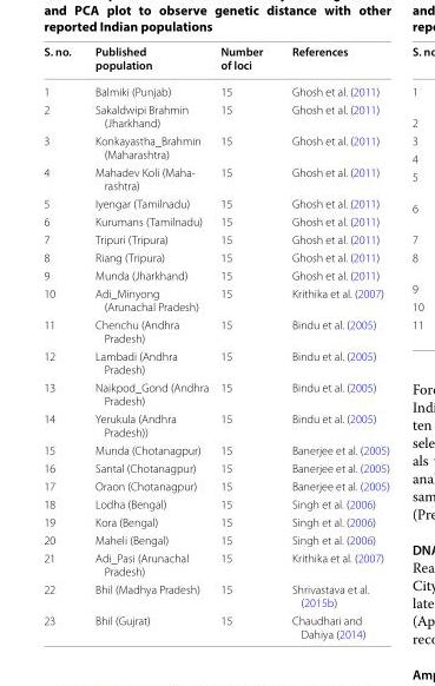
<table><thead><tr><td>S. no.</td><td>Published population</td><td>Number of loci</td><td>References</td></tr></thead><tbody><tr><td>1</td><td>Balmiki (Punjab)</td><td>15</td><td>Ghosh et al. (2011)</td></tr><tr><td>2</td><td>Sakaldwipi Brahmin (Jharkhand)</td><td>15</td><td>Ghosh et al. (2011)</td></tr><tr><td>3</td><td>Konkayastha_Brahmin (Maharashtra)</td><td>15</td><td>Ghosh et al. (2011)</td></tr><tr><td>4</td><td>Mahadev Koli (Maha- rashtra)</td><td>15</td><td>Ghosh et al. (2011)</td></tr><tr><td>5</td><td>Iyengar (Tamilnadu)</td><td>15</td><td>Ghosh et al. (2011)</td></tr><tr><td>6</td><td>Kurumans (Tamilnadu)</td><td>15</td><td>Ghosh et al. (2011)</td></tr><tr><td>7</td><td>Tripuri (Tripura)</td><td>15</td><td>Ghosh et al. (2011)</td></tr><tr><td>8</td><td>Riang (Tripura)</td><td>15</td><td>Ghosh et al. (2011)</td></tr><tr><td>9</td><td>Munda (Jharkhand)</td><td>15</td><td>Ghosh et al. (2011)</td></tr><tr><td>10</td><td>Adi_Minyong (Arunachal Pradesh)</td><td>15</td><td>Krithika et al. (2007)</td></tr><tr><td>11</td><td>Chenchu (Andhra Pradesh)</td><td>15</td><td>Bindu et al. (2005)</td></tr><tr><td>12</td><td>Lambadi (Andhra Pradesh)</td><td>15</td><td>Bindu et al. (2005)</td></tr><tr><td>13</td><td>Naikpod_Gond (Andhra Pradesh)</td><td>15</td><td>Bindu et al. (2005)</td></tr><tr><td>14</td><td>Yerukula (Andhra Pradesh))</td><td>15</td><td>Bindu et al. (2005)</td></tr><tr><td>15</td><td>Munda (Chotanagpur)</td><td>15</td><td>Banerjee et al. (2005)</td></tr><tr><td>16</td><td>Santal (Chotanagpur)</td><td>15</td><td>Banerjee et al. (2005)</td></tr><tr><td>17</td><td>Oraon (Chotanagpur)</td><td>15</td><td>Banerjee et al. (2005)</td></tr><tr><td>18</td><td>Lodha (Bengal)</td><td>15</td><td>Singh et al. (2006)</td></tr><tr><td>19</td><td>Kora (Bengal)</td><td>15</td><td>Singh et al. (2006)</td></tr><tr><td>20</td><td>Maheli (Bengal)</td><td>15</td><td>Singh et al. (2006)</td></tr><tr><td>21</td><td>Adi_Pasi (Arunachal Pradesh)</td><td>15</td><td>Krithika et al. (2007)</td></tr><tr><td>22</td><td>Bhil (Madhya Pradesh)</td><td>15</td><td>Shrivastava et al. (2015b)</td></tr><tr><td>23</td><td>Bhil (Gujrat)</td><td>15</td><td>Chaudhari and Dahiya (2014)</td></tr></tbody></table>